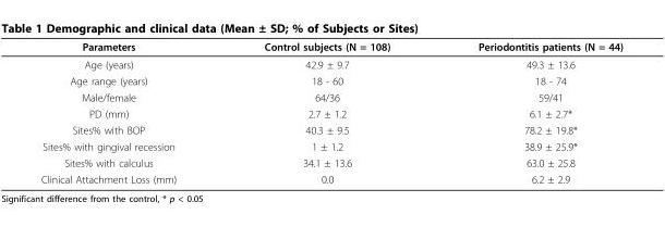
<table><thead><tr><td>Parameters</td><td>Control subjects (N = 108)</td><td>Periodontitis patients (N = 44)</td></tr></thead><tbody><tr><td>Age (years)</td><td>42.9 ± 9.7</td><td>49.3 ± 13.6</td></tr><tr><td>Age range (years)</td><td>18 - 60</td><td>18 - 74</td></tr><tr><td>Male/female</td><td>64/36</td><td>59/41</td></tr><tr><td>PD (mm)</td><td>2.7 ± 1.2</td><td>6.1 ± 2.7*</td></tr><tr><td>Sites% with BOP</td><td>40.3 ± 9.5</td><td>78.2 ± 19.8*</td></tr><tr><td>Sites% with gingival recession</td><td>1 ± 1.2</td><td>38.9 ± 25.9*</td></tr><tr><td>Sites% with calculus</td><td>34.1 ± 13.6</td><td>63.0 ± 25.8</td></tr><tr><td>Clinical Attachment Loss (mm)</td><td>0.0</td><td>6.2 ± 2.9</td></tr></tbody></table>